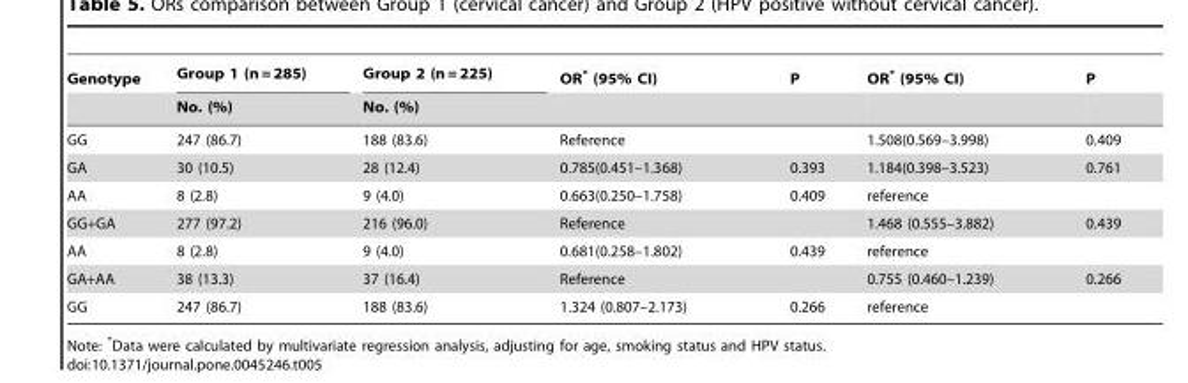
<table><thead><tr><td rowspan="2">Genotype</td><td rowspan="2">Group 1 (n = 285) No. (%)</td><td rowspan="2">Group 2 (n = 225) No. (%)</td><td rowspan="2">OR* (95% CI)</td><td rowspan="2">P</td><td rowspan="2">OR* (95% CI)</td><td rowspan="2">P</td></tr><tr></tr></thead><tbody><tr><td>GG</td><td>247 (86.7)</td><td>188 (83.6)</td><td>Reference</td><td></td><td>1.508(0.569–3.998)</td><td>0.409</td></tr><tr><td>GA</td><td>30 (10.5)</td><td>28 (12.4)</td><td>0.785(0.451–1.368)</td><td>0.393</td><td>1.184(0.398–3.523)</td><td>0.761</td></tr><tr><td>AA</td><td>8 (2.8)</td><td>9 (4.0)</td><td>0.663(0.250–1.758)</td><td>0.409</td><td>reference</td><td></td></tr><tr><td>GG+GA</td><td>277 (97.2)</td><td>216 (96.0)</td><td>Reference</td><td></td><td>1.468 (0.555–3.882)</td><td>0.439</td></tr><tr><td>AA</td><td>8 (2.8)</td><td>9 (4.0)</td><td>0.681(0.258–1.802)</td><td>0.439</td><td>reference</td><td></td></tr><tr><td>GA+AA</td><td>38 (13.3)</td><td>37 (16.4)</td><td>Reference</td><td></td><td>0.755 (0.460–1.239)</td><td>0.266</td></tr><tr><td>GG</td><td>247 (86.7)</td><td>188 (83.6)</td><td>1.324 (0.807–2.173)</td><td>0.266</td><td>reference</td><td></td></tr></tbody></table>